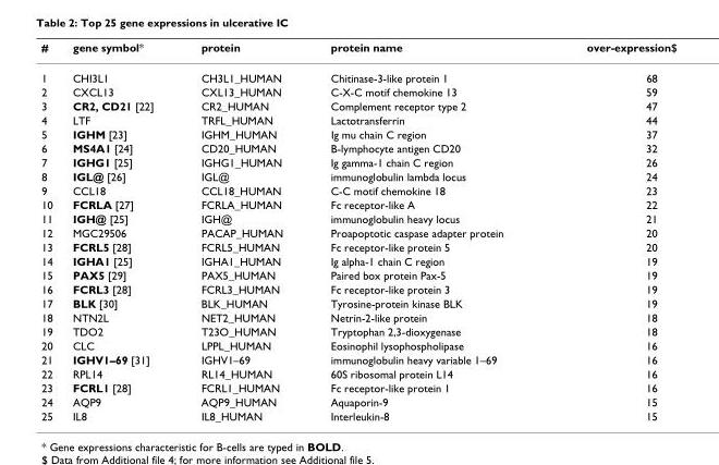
<table><thead><tr><td>#</td><td>gene symbol*</td><td>protein</td><td>protein name</td><td>over-expression$</td></tr></thead><tbody><tr><td>1</td><td>CHI3L1</td><td>CH3L1_HUMAN</td><td>Chitinase-3-like protein 1</td><td>68</td></tr><tr><td>2</td><td>CXCL13</td><td>CXL13_HUMAN</td><td>C-X-C motif chemokine 13</td><td>59</td></tr><tr><td>3</td><td>CR2, CD21 [22]</td><td>CR2_HUMAN</td><td>Complement receptor type 2</td><td>47</td></tr><tr><td>4</td><td>LTF</td><td>TRFL_HUMAN</td><td>Lactotransferrin</td><td>44</td></tr><tr><td>5</td><td>IGHM [23]</td><td>IGHM_HUMAN</td><td>Ig mu chain C region</td><td>37</td></tr><tr><td>6</td><td>MS4A1 [24]</td><td>CD20_HUMAN</td><td>B-lymphocyte antigen CD20</td><td>32</td></tr><tr><td>7</td><td>IGHG1 [25]</td><td>IGHG1_HUMAN</td><td>Ig gamma-1 chain C region</td><td>26</td></tr><tr><td>8</td><td>IGL@ [26]</td><td>IGL@</td><td>immunoglobulin lambda locus</td><td>24</td></tr><tr><td>9</td><td>CCL18</td><td>CCL18_HUMAN</td><td>C-C motif chemokine 18</td><td>23</td></tr><tr><td>10</td><td>FCRLA [27]</td><td>FCRLA_HUMAN</td><td>Fc receptor-like A</td><td>22</td></tr><tr><td>11</td><td>IGH@ [25]</td><td>IGH@</td><td>immunoglobulin heavy locus</td><td>21</td></tr><tr><td>12</td><td>MGC29506</td><td>PACAP_HUMAN</td><td>Proapoptotic caspase adapter protein</td><td>20</td></tr><tr><td>13</td><td>FCRL5 [28]</td><td>FCRL5_HUMAN</td><td>Fc receptor-like protein 5</td><td>20</td></tr><tr><td>14</td><td>IGHA1 [25]</td><td>IGHA1_HUMAN</td><td>Ig alpha-1 chain C region</td><td>19</td></tr><tr><td>15</td><td>PAX5 [29]</td><td>PAX5_HUMAN</td><td>Paired box protein Pax-5</td><td>19</td></tr><tr><td>16</td><td>FCRL3 [28]</td><td>FCRL3_HUMAN</td><td>Fc receptor-like protein 3</td><td>19</td></tr><tr><td>17</td><td>BLK [30]</td><td>BLK_HUMAN</td><td>Tyrosine-protein kinase BLK</td><td>19</td></tr><tr><td>18</td><td>NTN2L</td><td>NET2_HUMAN</td><td>Netrin-2-like protein</td><td>18</td></tr><tr><td>19</td><td>TDO2</td><td>T23O_HUMAN</td><td>Tryptophan 2,3-dioxygenase</td><td>18</td></tr><tr><td>20</td><td>CLC</td><td>LPPL_HUMAN</td><td>Eosinophil lysophospholipase</td><td>16</td></tr><tr><td>21</td><td>IGHV1–69 [31]</td><td>IGHV1–69</td><td>immunoglobulin heavy variable 1–69</td><td>16</td></tr><tr><td>22</td><td>RPL14</td><td>RL14_HUMAN</td><td>60S ribosomal protein L14</td><td>16</td></tr><tr><td>23</td><td>FCRL1 [28]</td><td>FCRL1_HUMAN</td><td>Fc receptor-like protein 1</td><td>16</td></tr><tr><td>24</td><td>AQP9</td><td>AQP9_HUMAN</td><td>Aquaporin-9</td><td>15</td></tr><tr><td>25</td><td>IL8</td><td>IL8_HUMAN</td><td>Interleukin-8</td><td>15</td></tr></tbody></table>